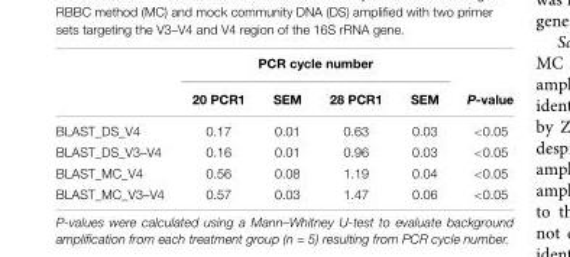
<table><thead><tr><td rowspan="2"></td><td colspan="4">PCR cycle number</td><td rowspan="2">P-value</td></tr><tr><td>20 PCR1</td><td>SEM</td><td>28 PCR1</td><td>SEM</td></tr></thead><tbody><tr><td>BLAST_DS_V4</td><td>0.17</td><td>0.01</td><td>0.63</td><td>0.03</td><td>&lt;0.05</td></tr><tr><td>BLAST_DS_V3–V4</td><td>0.16</td><td>0.01</td><td>0.96</td><td>0.03</td><td>&lt;0.05</td></tr><tr><td>BLAST_MC_V4</td><td>0.56</td><td>0.08</td><td>1.19</td><td>0.04</td><td>&lt;0.05</td></tr><tr><td>BLAST_MC_V3–V4</td><td>0.57</td><td>0.03</td><td>1.47</td><td>0.06</td><td>&lt;0.05</td></tr></tbody></table>